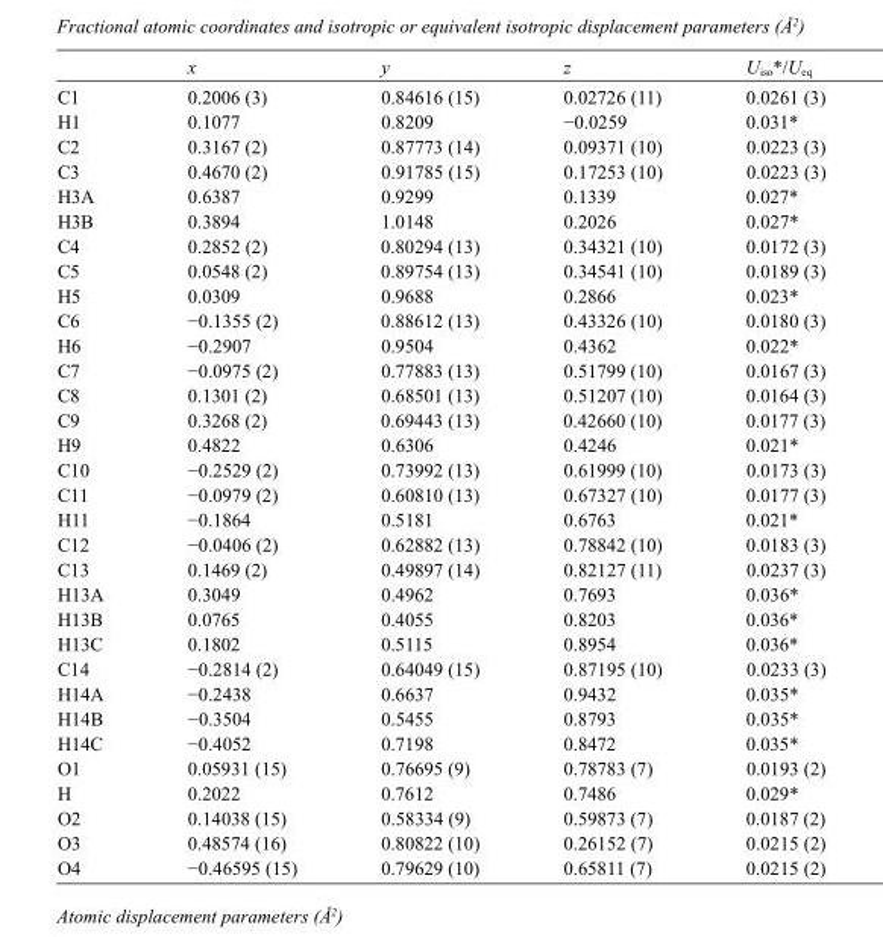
<table><thead><tr><td></td><td>x</td><td>y</td><td>z</td><td>U<sub>iso</sub>*/U<sub>eq</sub></td></tr></thead><tbody><tr><td>C1</td><td>0.2006 (3)</td><td>0.84616 (15)</td><td>0.02726 (11)</td><td>0.0261 (3)</td></tr><tr><td>H1</td><td>0.1077</td><td>0.8209</td><td>−0.0259</td><td>0.031*</td></tr><tr><td>C2</td><td>0.3167 (2)</td><td>0.87773 (14)</td><td>0.09371 (10)</td><td>0.0223 (3)</td></tr><tr><td>C3</td><td>0.4670 (2)</td><td>0.91785 (15)</td><td>0.17253 (10)</td><td>0.0223 (3)</td></tr><tr><td>H3A</td><td>0.6387</td><td>0.9299</td><td>0.1339</td><td>0.027*</td></tr><tr><td>H3B</td><td>0.3894</td><td>1.0148</td><td>0.2026</td><td>0.027*</td></tr><tr><td>C4</td><td>0.2852 (2)</td><td>0.80294 (13)</td><td>0.34321 (10)</td><td>0.0172 (3)</td></tr><tr><td>C5</td><td>0.0548 (2)</td><td>0.89754 (13)</td><td>0.34541 (10)</td><td>0.0189 (3)</td></tr><tr><td>H5</td><td>0.0309</td><td>0.9688</td><td>0.2866</td><td>0.023*</td></tr><tr><td>C6</td><td>−0.1355 (2)</td><td>0.88612 (13)</td><td>0.43326 (10)</td><td>0.0180 (3)</td></tr><tr><td>H6</td><td>−0.2907</td><td>0.9504</td><td>0.4362</td><td>0.022*</td></tr><tr><td>C7</td><td>−0.0975 (2)</td><td>0.77883 (13)</td><td>0.51799 (10)</td><td>0.0167 (3)</td></tr><tr><td>C8</td><td>0.1301 (2)</td><td>0.68501 (13)</td><td>0.51207 (10)</td><td>0.0164 (3)</td></tr><tr><td>C9</td><td>0.3268 (2)</td><td>0.69443 (13)</td><td>0.42660 (10)</td><td>0.0177 (3)</td></tr><tr><td>H9</td><td>0.4822</td><td>0.6306</td><td>0.4246</td><td>0.021*</td></tr><tr><td>C10</td><td>−0.2529 (2)</td><td>0.73992 (13)</td><td>0.61999 (10)</td><td>0.0173 (3)</td></tr><tr><td>C11</td><td>−0.0979 (2)</td><td>0.60810 (13)</td><td>0.67327 (10)</td><td>0.0177 (3)</td></tr><tr><td>H11</td><td>−0.1864</td><td>0.5181</td><td>0.6763</td><td>0.021*</td></tr><tr><td>C12</td><td>−0.0406 (2)</td><td>0.62882 (13)</td><td>0.78842 (10)</td><td>0.0183 (3)</td></tr><tr><td>C13</td><td>0.1469 (2)</td><td>0.49897 (14)</td><td>0.82127 (11)</td><td>0.0237 (3)</td></tr><tr><td>H13A</td><td>0.3049</td><td>0.4962</td><td>0.7693</td><td>0.036*</td></tr><tr><td>H13B</td><td>0.0765</td><td>0.4055</td><td>0.8203</td><td>0.036*</td></tr><tr><td>H13C</td><td>0.1802</td><td>0.5115</td><td>0.8954</td><td>0.036*</td></tr><tr><td>C14</td><td>−0.2814 (2)</td><td>0.64049 (15)</td><td>0.87195 (10)</td><td>0.0233 (3)</td></tr><tr><td>H14A</td><td>−0.2438</td><td>0.6637</td><td>0.9432</td><td>0.035*</td></tr><tr><td>H14B</td><td>−0.3504</td><td>0.5455</td><td>0.8793</td><td>0.035*</td></tr><tr><td>H14C</td><td>−0.4052</td><td>0.7198</td><td>0.8472</td><td>0.035*</td></tr><tr><td>O1</td><td>0.05931 (15)</td><td>0.76695 (9)</td><td>0.78783 (7)</td><td>0.0193 (2)</td></tr><tr><td>H</td><td>0.2022</td><td>0.7612</td><td>0.7486</td><td>0.029*</td></tr><tr><td>O2</td><td>0.14038 (15)</td><td>0.58334 (9)</td><td>0.59873 (7)</td><td>0.0187 (2)</td></tr><tr><td>O3</td><td>0.48574 (16)</td><td>0.80822 (10)</td><td>0.26152 (7)</td><td>0.0215 (2)</td></tr><tr><td>O4</td><td>−0.46595 (15)</td><td>0.79629 (10)</td><td>0.65811 (7)</td><td>0.0215 (2)</td></tr></tbody></table>